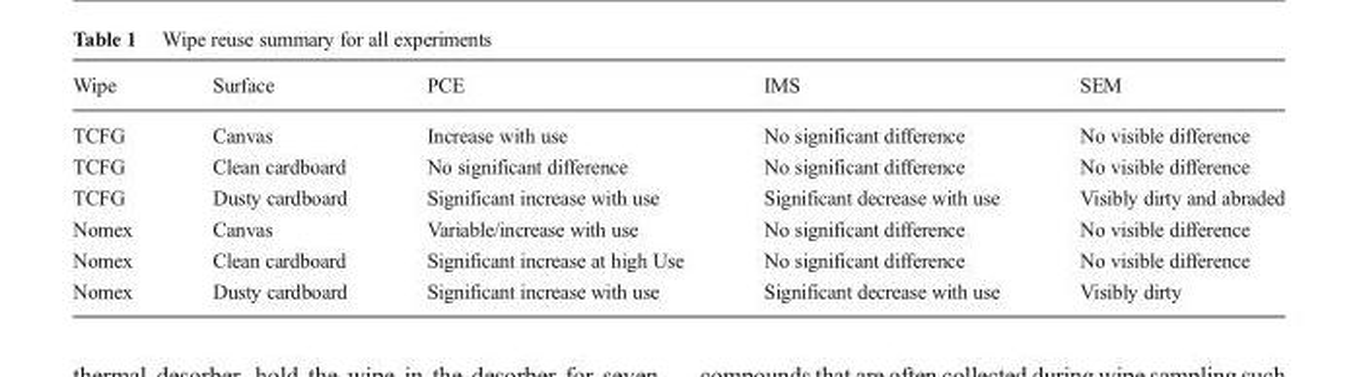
<table><thead><tr><td>Wipe</td><td>Surface</td><td>PCE</td><td>IMS</td><td>SEM</td></tr></thead><tbody><tr><td>TCFG</td><td>Canvas</td><td>Increase with use</td><td>No significant difference</td><td>No visible difference</td></tr><tr><td>TCFG</td><td>Clean cardboard</td><td>No significant difference</td><td>No significant difference</td><td>No visible difference</td></tr><tr><td>TCFG</td><td>Dusty cardboard</td><td>Significant increase with use</td><td>Significant decrease with use</td><td>Visibly dirty and abraded</td></tr><tr><td>Nomex</td><td>Canvas</td><td>Variable/increase with use</td><td>No significant difference</td><td>No visible difference</td></tr><tr><td>Nomex</td><td>Clean cardboard</td><td>Significant increase at high Use</td><td>No significant difference</td><td>No visible difference</td></tr><tr><td>Nomex</td><td>Dusty cardboard</td><td>Significant increase with use</td><td>Significant decrease with use</td><td>Visibly dirty</td></tr></tbody></table>